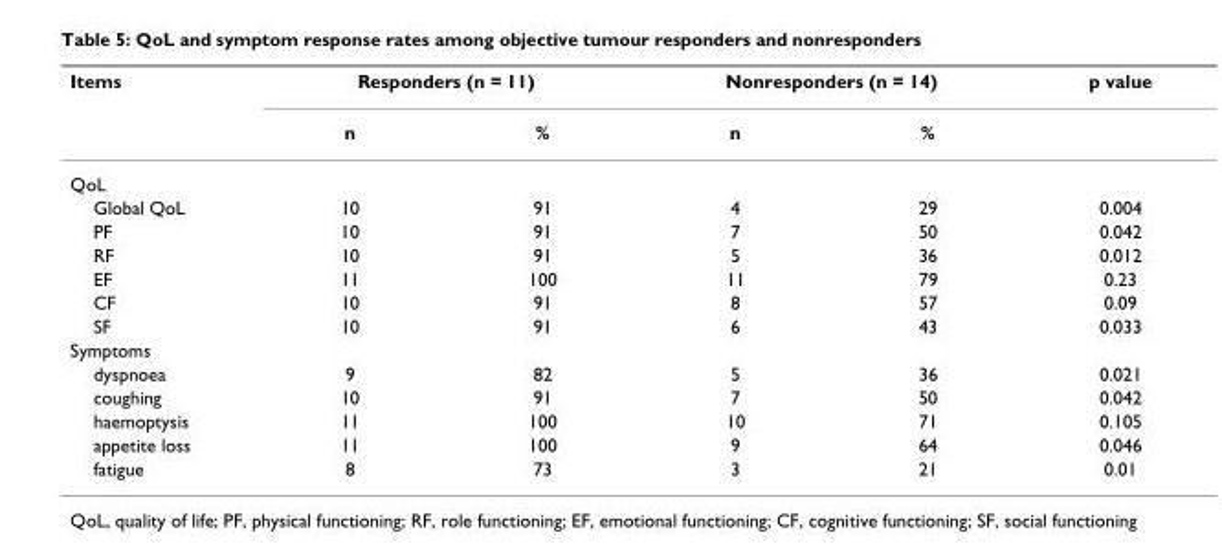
<table><thead><tr><td rowspan="2">Items</td><td colspan="2">Responders (n = 11)</td><td colspan="2">Nonresponders (n = 14)</td><td rowspan="2">p value</td></tr><tr><td>n</td><td>%</td><td>n</td><td>%</td></tr></thead><tbody><tr><td colspan="6">QoL</td></tr><tr><td>Global QoL</td><td>10</td><td>91</td><td>4</td><td>29</td><td>0.004</td></tr><tr><td>PF</td><td>10</td><td>91</td><td>7</td><td>50</td><td>0.042</td></tr><tr><td>RF</td><td>10</td><td>91</td><td>5</td><td>36</td><td>0.012</td></tr><tr><td>EF</td><td>11</td><td>100</td><td>11</td><td>79</td><td>0.23</td></tr><tr><td>CF</td><td>10</td><td>91</td><td>8</td><td>57</td><td>0.09</td></tr><tr><td>SF</td><td>10</td><td>91</td><td>6</td><td>43</td><td>0.033</td></tr><tr><td colspan="6">Symptoms</td></tr><tr><td>dyspnoea</td><td>9</td><td>82</td><td>5</td><td>36</td><td>0.021</td></tr><tr><td>coughing</td><td>10</td><td>91</td><td>7</td><td>50</td><td>0.042</td></tr><tr><td>haemoptysis</td><td>11</td><td>100</td><td>10</td><td>71</td><td>0.105</td></tr><tr><td>appetite loss</td><td>11</td><td>100</td><td>9</td><td>64</td><td>0.046</td></tr><tr><td>fatigue</td><td>8</td><td>73</td><td>3</td><td>21</td><td>0.01</td></tr></tbody></table>